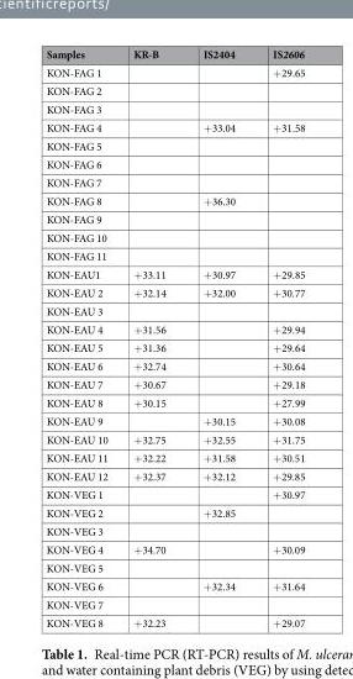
<table><thead><tr><td>Samples</td><td>KR-B</td><td>IS2404</td><td>IS2606</td></tr></thead><tbody><tr><td>KON-FAG 1</td><td></td><td></td><td>+29.65</td></tr><tr><td colspan="4">KON-FAG 2</td></tr><tr><td colspan="4">KON-FAG 3</td></tr><tr><td>KON-FAG 4</td><td></td><td>+33.04</td><td>+31.58</td></tr><tr><td colspan="4">KON-FAG 5</td></tr><tr><td colspan="4">KON-FAG 6</td></tr><tr><td colspan="4">KON-FAG 7</td></tr><tr><td>KON-FAG 8</td><td></td><td>+36.30</td><td></td></tr><tr><td colspan="4">KON-FAG 9</td></tr><tr><td colspan="4">KON-FAG 10</td></tr><tr><td colspan="4">KON-FAG 11</td></tr><tr><td>KON-EAU1</td><td>+33.11</td><td>+30.97</td><td>+29.85</td></tr><tr><td>KON-EAU 2</td><td>+32.14</td><td>+32.00</td><td>+30.77</td></tr><tr><td colspan="4">KON-EAU 3</td></tr><tr><td>KON-EAU 4</td><td>+31.56</td><td></td><td>+29.94</td></tr><tr><td>KON-EAU 5</td><td>+31.36</td><td></td><td>+29.64</td></tr><tr><td>KON-EAU 6</td><td>+32.74</td><td></td><td>+30.64</td></tr><tr><td>KON-EAU 7</td><td>+30.67</td><td></td><td>+29.18</td></tr><tr><td>KON-EAU 8</td><td>+30.15</td><td></td><td>+27.99</td></tr><tr><td>KON-EAU 9</td><td></td><td>+30.15</td><td>+30.08</td></tr><tr><td>KON-EAU 10</td><td>+32.75</td><td>+32.55</td><td>+31.75</td></tr><tr><td>KON-EAU 11</td><td>+32.22</td><td>+31.58</td><td>+30.51</td></tr><tr><td>KON-EAU 12</td><td>+32.37</td><td>+32.12</td><td>+29.85</td></tr><tr><td>KON-VEG 1</td><td></td><td></td><td>+30.97</td></tr><tr><td>KON-VEG 2</td><td></td><td>+32.85</td><td></td></tr><tr><td colspan="4">KON-VEG 3</td></tr><tr><td>KON-VEG 4</td><td>+34.70</td><td></td><td>+30.09</td></tr><tr><td colspan="4">KON-VEG 5</td></tr><tr><td>KON-VEG 6</td><td></td><td>+32.34</td><td>+31.64</td></tr><tr><td colspan="4">KON-VEG 7</td></tr><tr><td>KON-VEG 8</td><td>+32.23</td><td></td><td>+29.07</td></tr></tbody></table>